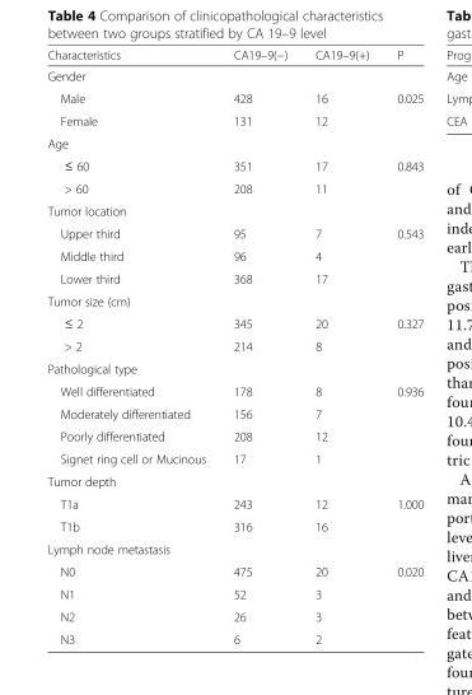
<table><thead><tr><td>Characteristics</td><td>CA19–9(−)</td><td>CA19–9(+)</td><td>P</td></tr></thead><tbody><tr><td colspan="4">Gender</td></tr><tr><td>Male</td><td>428</td><td>16</td><td>0.025</td></tr><tr><td>Female</td><td>131</td><td>12</td><td></td></tr><tr><td colspan="4">Age</td></tr><tr><td>≤ 60</td><td>351</td><td>17</td><td>0.843</td></tr><tr><td>&gt; 60</td><td>208</td><td>11</td><td></td></tr><tr><td colspan="4">Tumor location</td></tr><tr><td>Upper third</td><td>95</td><td>7</td><td>0.543</td></tr><tr><td>Middle third</td><td>96</td><td>4</td><td></td></tr><tr><td>Lower third</td><td>368</td><td>17</td><td></td></tr><tr><td colspan="4">Tumor size (cm)</td></tr><tr><td>≤ 2</td><td>345</td><td>20</td><td>0.327</td></tr><tr><td>&gt; 2</td><td>214</td><td>8</td><td></td></tr><tr><td colspan="4">Pathological type</td></tr><tr><td>Well differentiated</td><td>178</td><td>8</td><td>0.936</td></tr><tr><td>Moderately differentiated</td><td>156</td><td>7</td><td></td></tr><tr><td>Poorly differentiated</td><td>208</td><td>12</td><td></td></tr><tr><td>Signet ring cell or Mucinous</td><td>17</td><td>1</td><td></td></tr><tr><td colspan="4">Tumor depth</td></tr><tr><td>T1a</td><td>243</td><td>12</td><td>1.000</td></tr><tr><td>T1b</td><td>316</td><td>16</td><td></td></tr><tr><td colspan="4">Lymph node metastasis</td></tr><tr><td>N0</td><td>475</td><td>20</td><td>0.020</td></tr><tr><td>N1</td><td>52</td><td>3</td><td></td></tr><tr><td>N2</td><td>26</td><td>3</td><td></td></tr><tr><td>N3</td><td>6</td><td>2</td><td></td></tr></tbody></table>